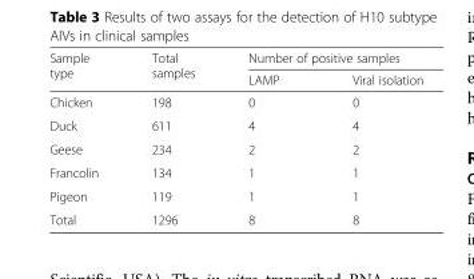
<table><thead><tr><td rowspan="2">Sample type</td><td rowspan="2">Total samples</td><td colspan="2">Number of positive samples</td></tr><tr><td>LAMP</td><td>Viral isolation</td></tr></thead><tbody><tr><td>Chicken</td><td>198</td><td>0</td><td>0</td></tr><tr><td>Duck</td><td>611</td><td>4</td><td>4</td></tr><tr><td>Geese</td><td>234</td><td>2</td><td>2</td></tr><tr><td>Francolin</td><td>134</td><td>1</td><td>1</td></tr><tr><td>Pigeon</td><td>119</td><td>1</td><td>1</td></tr><tr><td>Total</td><td>1296</td><td>8</td><td>8</td></tr></tbody></table>